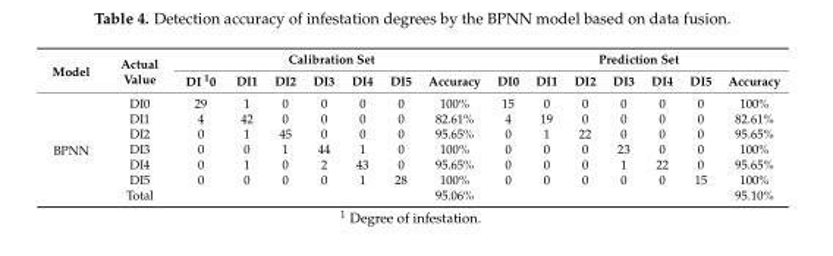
<table><thead><tr><td rowspan="2">Model</td><td rowspan="2">Actual Value</td><td colspan="7">Calibration Set</td><td colspan="7">Prediction Set</td></tr><tr><td>DI <sup>1</sup>0</td><td>DI1</td><td>DI2</td><td>DI3</td><td>DI4</td><td>DI5</td><td>Accuracy</td><td>DI0</td><td>DI1</td><td>DI2</td><td>DI3</td><td>DI4</td><td>DI5</td><td>Accuracy</td></tr></thead><tbody><tr><td rowspan="7">BPNN</td><td>DI0</td><td>29</td><td>1</td><td>0</td><td>0</td><td>0</td><td>0</td><td>100%</td><td>15</td><td>0</td><td>0</td><td>0</td><td>0</td><td>0</td><td>100%</td></tr><tr><td>DI1</td><td>4</td><td>42</td><td>0</td><td>0</td><td>0</td><td>0</td><td>82.61%</td><td>4</td><td>19</td><td>0</td><td>0</td><td>0</td><td>0</td><td>82.61%</td></tr><tr><td>DI2</td><td>0</td><td>1</td><td>45</td><td>0</td><td>0</td><td>0</td><td>95.65%</td><td>0</td><td>1</td><td>22</td><td>0</td><td>0</td><td>0</td><td>95.65%</td></tr><tr><td>DI3</td><td>0</td><td>0</td><td>1</td><td>44</td><td>1</td><td>0</td><td>100%</td><td>0</td><td>0</td><td>0</td><td>23</td><td>0</td><td>0</td><td>100%</td></tr><tr><td>DI4</td><td>0</td><td>1</td><td>0</td><td>2</td><td>43</td><td>0</td><td>95.65%</td><td>0</td><td>0</td><td>0</td><td>1</td><td>22</td><td>0</td><td>95.65%</td></tr><tr><td>DI5</td><td>0</td><td>0</td><td>0</td><td>0</td><td>1</td><td>28</td><td>100%</td><td>0</td><td>0</td><td>0</td><td>0</td><td>0</td><td>15</td><td>100%</td></tr><tr><td>Total</td><td></td><td></td><td></td><td></td><td></td><td></td><td>95.06%</td><td></td><td></td><td></td><td></td><td></td><td></td><td>95.10%</td></tr></tbody></table>